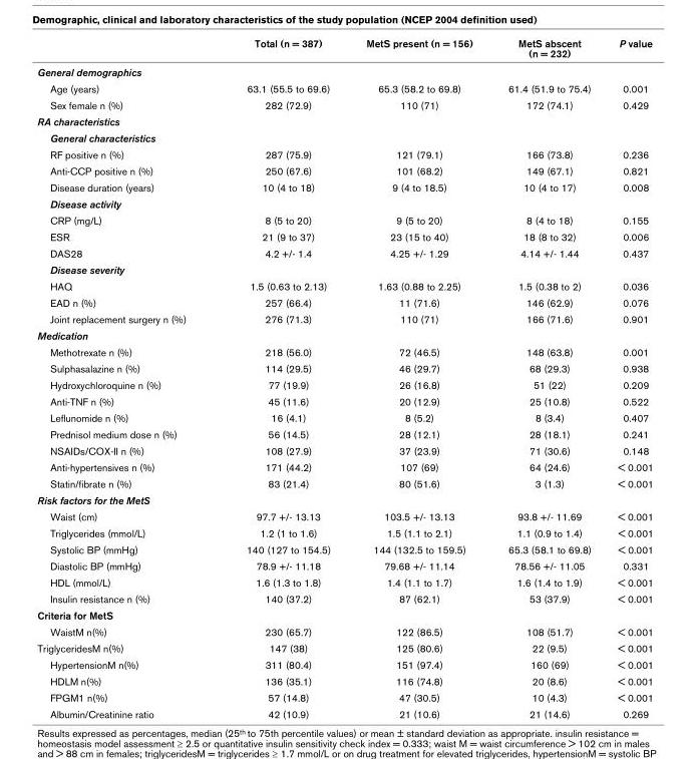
<table><thead><tr><td></td><td>Total (n = 387)</td><td>MetS present (n = 156)</td><td>MetS abscent (n = 232)</td><td>P value</td></tr></thead><tbody><tr><td colspan="5">General demographics</td></tr><tr><td>Age (years)</td><td>63.1 (55.5 to 69.6)</td><td>65.3 (58.2 to 69.8)</td><td>61.4 (51.9 to 75.4)</td><td>0.001</td></tr><tr><td>Sex female n (%)</td><td>282 (72.9)</td><td>110 (71)</td><td>172 (74.1)</td><td>0.429</td></tr><tr><td colspan="5">RA characteristics</td></tr><tr><td colspan="5">General characteristics</td></tr><tr><td>RF positive n (%)</td><td>287 (75.9)</td><td>121 (79.1)</td><td>166 (73.8)</td><td>0.236</td></tr><tr><td>Anti-CCP positive n (%)</td><td>250 (67.6)</td><td>101 (68.2)</td><td>149 (67.1)</td><td>0.821</td></tr><tr><td>Disease duration (years)</td><td>10 (4 to 18)</td><td>9 (4 to 18.5)</td><td>10 (4 to 17)</td><td>0.008</td></tr><tr><td colspan="5">Disease activity</td></tr><tr><td>CRP (mg/L)</td><td>8 (5 to 20)</td><td>9 (5 to 20)</td><td>8 (4 to 18)</td><td>0.155</td></tr><tr><td>ESR</td><td>21 (9 to 37)</td><td>23 (15 to 40)</td><td>18 (8 to 32)</td><td>0.006</td></tr><tr><td>DAS28</td><td>4.2 +/- 1.4</td><td>4.25 +/- 1.29</td><td>4.14 +/- 1.44</td><td>0.437</td></tr><tr><td colspan="5">Disease severity</td></tr><tr><td>HAQ</td><td>1.5 (0.63 to 2.13)</td><td>1.63 (0.88 to 2.25)</td><td>1.5 (0.38 to 2)</td><td>0.036</td></tr><tr><td>EAD n (%)</td><td>257 (66.4)</td><td>11 (71.6)</td><td>146 (62.9)</td><td>0.076</td></tr><tr><td>Joint replacement surgery n (%)</td><td>276 (71.3)</td><td>110 (71)</td><td>166 (71.6)</td><td>0.901</td></tr><tr><td colspan="5">Medication</td></tr><tr><td>Methotrexate n (%)</td><td>218 (56.0)</td><td>72 (46.5)</td><td>148 (63.8)</td><td>0.001</td></tr><tr><td>Sulphasalazine n (%)</td><td>114 (29.5)</td><td>46 (29.7)</td><td>68 (29.3)</td><td>0.938</td></tr><tr><td>Hydroxychloroquine n (%)</td><td>77 (19.9)</td><td>26 (16.8)</td><td>51 (22)</td><td>0.209</td></tr><tr><td>Anti-TNF n (%)</td><td>45 (11.6)</td><td>20 (12.9)</td><td>25 (10.8)</td><td>0.522</td></tr><tr><td>Leflunomide n (%)</td><td>16 (4.1)</td><td>8 (5.2)</td><td>8 (3.4)</td><td>0.407</td></tr><tr><td>Prednisol medium dose n (%)</td><td>56 (14.5)</td><td>28 (12.1)</td><td>28 (18.1)</td><td>0.241</td></tr><tr><td>NSAIDs/COX-II n (%)</td><td>108 (27.9)</td><td>37 (23.9)</td><td>71 (30.6)</td><td>0.148</td></tr><tr><td>Anti-hypertensives n (%)</td><td>171 (44.2)</td><td>107 (69)</td><td>64 (24.6)</td><td>&lt; 0.001</td></tr><tr><td>Statin/fibrate n (%)</td><td>83 (21.4)</td><td>80 (51.6)</td><td>3 (1.3)</td><td>&lt; 0.001</td></tr><tr><td colspan="5">Risk factors for the MetS</td></tr><tr><td>Waist (cm)</td><td>97.7 +/- 13.13</td><td>103.5 +/- 13.13</td><td>93.8 +/- 11.69</td><td>&lt; 0.001</td></tr><tr><td>Triglycerides (mmol/L)</td><td>1.2 (1 to 1.6)</td><td>1.5 (1.1 to 2.1)</td><td>1.1 (0.9 to 1.4)</td><td>&lt; 0.001</td></tr><tr><td>Systolic BP (mmHg)</td><td>140 (127 to 154.5)</td><td>144 (132.5 to 159.5)</td><td>65.3 (58.1 to 69.8)</td><td>&lt; 0.001</td></tr><tr><td>Diastolic BP (mmHg)</td><td>78.9 +/- 11.18</td><td>79.68 +/- 11.14</td><td>78.56 +/- 11.05</td><td>0.331</td></tr><tr><td>HDL (mmol/L)</td><td>1.6 (1.3 to 1.8)</td><td>1.4 (1.1 to 1.7)</td><td>1.6 (1.4 to 1.9)</td><td>&lt; 0.001</td></tr><tr><td>Insulin resistance n (%)</td><td>140 (37.2)</td><td>87 (62.1)</td><td>53 (37.9)</td><td>&lt; 0.001</td></tr><tr><td colspan="5">Criteria for MetS</td></tr><tr><td>WaistM n(%)</td><td>230 (65.7)</td><td>122 (86.5)</td><td>108 (51.7)</td><td>&lt; 0.001</td></tr><tr><td>TriglyceridesM n(%)</td><td>147 (38)</td><td>125 (80.6)</td><td>22 (9.5)</td><td>&lt; 0.001</td></tr><tr><td>HypertensionM n(%)</td><td>311 (80.4)</td><td>151 (97.4)</td><td>160 (69)</td><td>&lt; 0.001</td></tr><tr><td>HDLM n(%)</td><td>136 (35.1)</td><td>116 (74.8)</td><td>20 (8.6)</td><td>&lt; 0.001</td></tr><tr><td>FPGM1 n(%)</td><td>57 (14.8)</td><td>47 (30.5)</td><td>10 (4.3)</td><td>&lt; 0.001</td></tr><tr><td>Albumin/Creatinine ratio</td><td>42 (10.9)</td><td>21 (10.6)</td><td>21 (14.6)</td><td>0.269</td></tr></tbody></table>